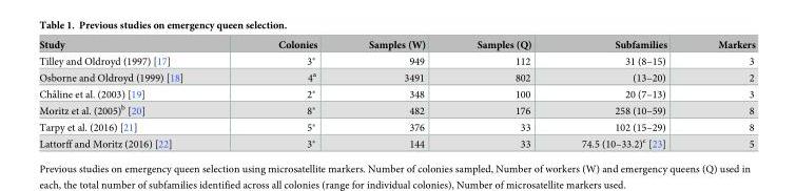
<table><thead><tr><td>Study</td><td>Colonies</td><td>Samples (W)</td><td>Samples (Q)</td><td>Subfamilies</td><td>Markers</td></tr></thead><tbody><tr><td>Tilley and Oldroyd (1997) [17]</td><td>3*</td><td>949</td><td>112</td><td>31 (8–15)</td><td>3</td></tr><tr><td>Osborne and Oldroyd (1999) [18]</td><td>4<sup>a</sup></td><td>3491</td><td>802</td><td>(13–20)</td><td>2</td></tr><tr><td>Chaˆline et al. (2003) [19]</td><td>2*</td><td>348</td><td>100</td><td>20 (7–13)</td><td>3</td></tr><tr><td>Moritz et al. (2005)<sup>b</sup> [20]</td><td>8*</td><td>482</td><td>176</td><td>258 (10–59)</td><td>8</td></tr><tr><td>Tarpy et al. (2016) [21]</td><td>5*</td><td>376</td><td>33</td><td>102 (15–29)</td><td>8</td></tr><tr><td>Lattorff and Moritz (2016) [22]</td><td>3*</td><td>144</td><td>33</td><td>74.5 (10–33.2)<sup>c</sup> [23]</td><td>5</td></tr></tbody></table>